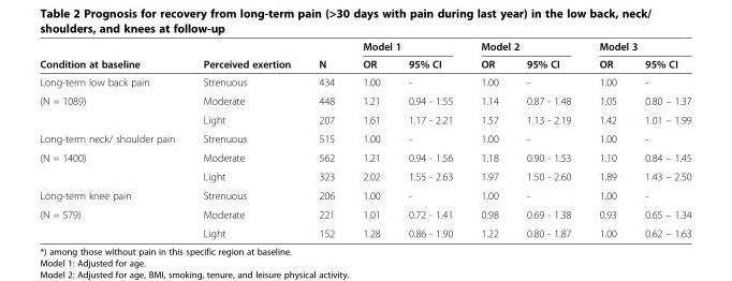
<table><thead><tr><td rowspan="2">Condition at baseline</td><td rowspan="2">Perceived exertion</td><td rowspan="2">N</td><td colspan="2">Model 1</td><td colspan="2">Model 2</td><td colspan="2">Model 3</td></tr><tr><td>OR</td><td>95% CI</td><td>OR</td><td>95% CI</td><td>OR</td><td>95% CI</td></tr></thead><tbody><tr><td>Long-term low back pain</td><td>Strenuous</td><td>434</td><td>1.00</td><td>-</td><td>1.00</td><td>-</td><td>1.00</td><td>-</td></tr><tr><td rowspan="2">(N = 1089)</td><td>Moderate</td><td>448</td><td>1.21</td><td>0.94 - 1.55</td><td>1.14</td><td>0.87 - 1.48</td><td>1.05</td><td>0.80 – 1.37</td></tr><tr><td>Light</td><td>207</td><td>1.61</td><td>1.17 - 2.21</td><td>1.57</td><td>1.13 - 2.19</td><td>1.42</td><td>1.01 – 1.99</td></tr><tr><td>Long-term neck/ shoulder pain</td><td>Strenuous</td><td>515</td><td>1.00</td><td>-</td><td>1.00</td><td>-</td><td>1.00</td><td>-</td></tr><tr><td rowspan="2">(N = 1400)</td><td>Moderate</td><td>562</td><td>1.21</td><td>0.94 - 1.56</td><td>1.18</td><td>0.90 - 1.53</td><td>1.10</td><td>0.84 – 1.45</td></tr><tr><td>Light</td><td>323</td><td>2.02</td><td>1.55 - 2.63</td><td>1.97</td><td>1.50 - 2.60</td><td>1.89</td><td>1.43 – 2.50</td></tr><tr><td>Long-term knee pain</td><td>Strenuous</td><td>206</td><td>1.00</td><td>-</td><td>1.00</td><td>-</td><td>1.00</td><td>-</td></tr><tr><td rowspan="2">(N = 579)</td><td>Moderate</td><td>221</td><td>1.01</td><td>0.72 - 1.41</td><td>0.98</td><td>0.69 - 1.38</td><td>0.93</td><td>0.65 – 1.34</td></tr><tr><td>Light</td><td>152</td><td>1.28</td><td>0.86 - 1.90</td><td>1.22</td><td>0.80 - 1.87</td><td>1.00</td><td>0.62 – 1.63</td></tr></tbody></table>